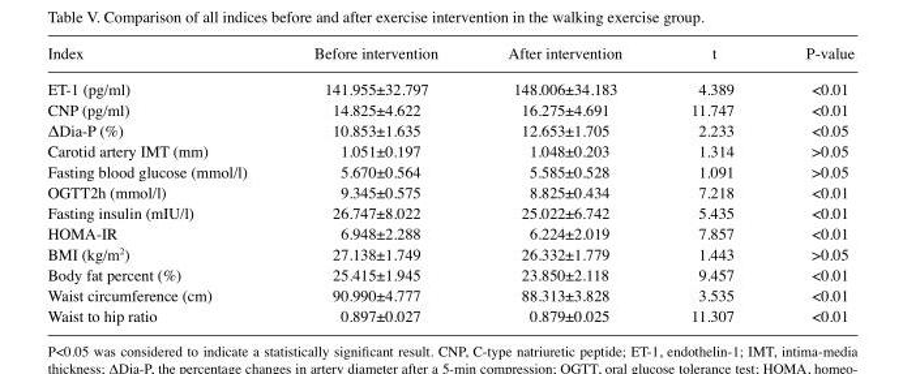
<table><thead><tr><td>Index</td><td>Before intervention</td><td>After intervention</td><td>t</td><td>P-value</td></tr></thead><tbody><tr><td>ET-1 (pg/ml)</td><td>141.955±32.797</td><td>148.006±34.183</td><td>4.389</td><td>&lt;0.01</td></tr><tr><td>CNP (pg/ml)</td><td>14.825±4.622</td><td>16.275±4.691</td><td>11.747</td><td>&lt;0.01</td></tr><tr><td>ΔDia-P (%)</td><td>10.853±1.635</td><td>12.653±1.705</td><td>2.233</td><td>&lt;0.05</td></tr><tr><td>Carotid artery IMT (mm)</td><td>1.051±0.197</td><td>1.048±0.203</td><td>1.314</td><td>&gt;0.05</td></tr><tr><td>Fasting blood glucose (mmol/l)</td><td>5.670±0.564</td><td>5.585±0.528</td><td>1.091</td><td>&gt;0.05</td></tr><tr><td>OGTT2h (mmol/l)</td><td>9.345±0.575</td><td>8.825±0.434</td><td>7.218</td><td>&lt;0.01</td></tr><tr><td>Fasting insulin (mIU/l)</td><td>26.747±8.022</td><td>25.022±6.742</td><td>5.435</td><td>&lt;0.01</td></tr><tr><td>HOMA-IR</td><td>6.948±2.288</td><td>6.224±2.019</td><td>7.857</td><td>&lt;0.01</td></tr><tr><td>BMI (kg/m<sup>2</sup>)</td><td>27.138±1.749</td><td>26.332±1.779</td><td>1.443</td><td>&gt;0.05</td></tr><tr><td>Body fat percent (﹪)</td><td>25.415±1.945</td><td>23.850±2.118</td><td>9.457</td><td>&lt;0.01</td></tr><tr><td>Waist circumference (cm)</td><td>90.990±4.777</td><td>88.313±3.828</td><td>3.535</td><td>&lt;0.01</td></tr><tr><td>Waist to hip ratio</td><td>0.897±0.027</td><td>0.879±0.025</td><td>11.307</td><td>&lt;0.01</td></tr></tbody></table>